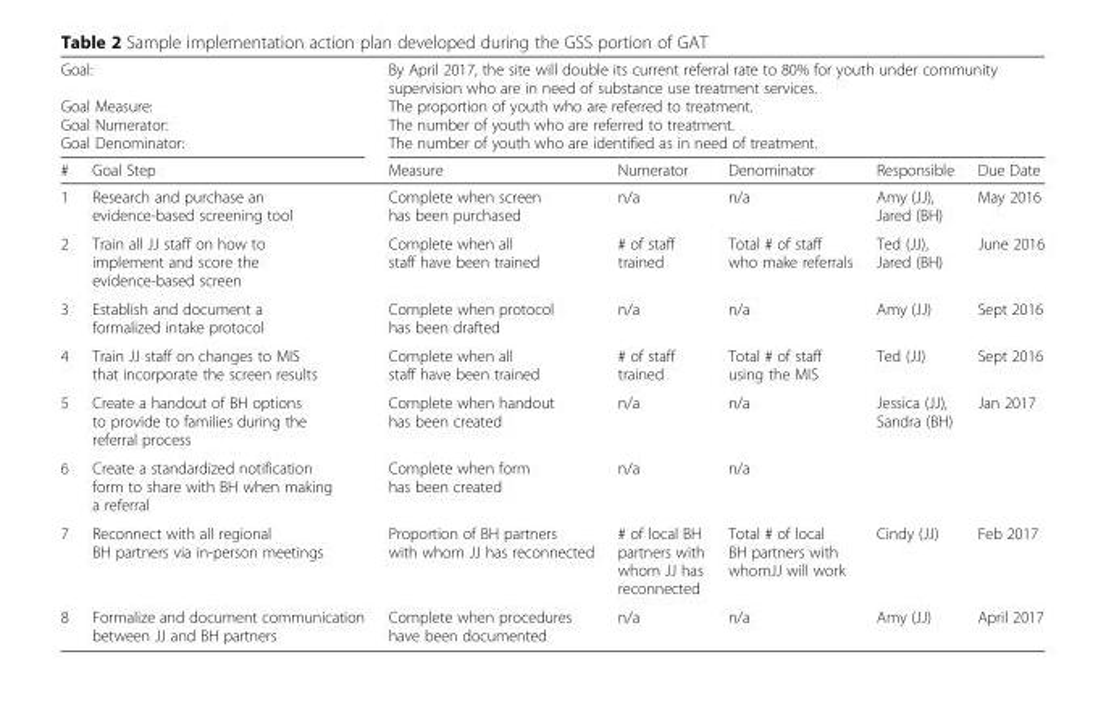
<table><thead><tr><td rowspan="4" colspan="2">Goal: Goal Measure: Goal Numerator: Goal Denominator:</td><td rowspan="4" colspan="5">By April 2017, the site will double its current referral rate to 80% for youth under community supervision who are in need of substance use treatment services. The proportion of youth who are referred to treatment. The number of youth who are referred to treatment. The number of youth who are identified as in need of treatment.</td></tr><tr></tr><tr></tr><tr></tr><tr><td>#</td><td>Goal Step</td><td>Measure</td><td>Numerator</td><td>Denominator</td><td>Responsible</td><td>Due Date</td></tr></thead><tbody><tr><td>1</td><td>Research and purchase an evidence-based screening tool</td><td>Complete when screen has been purchased</td><td>n/a</td><td>n/a</td><td>Amy (JJ), Jared (BH)</td><td>May 2016</td></tr><tr><td>2</td><td>Train all JJ staff on how to implement and score the evidence-based screen</td><td>Complete when all staff have been trained</td><td># of staff trained</td><td>Total # of staff who make referrals</td><td>Ted (JJ), Jared (BH)</td><td>June 2016</td></tr><tr><td>3</td><td>Establish and document a formalized intake protocol</td><td>Complete when protocol has been drafted</td><td>n/a</td><td>n/a</td><td>Amy (JJ)</td><td>Sept 2016</td></tr><tr><td>4</td><td>Train JJ staff on changes to MIS that incorporate the screen results</td><td>Complete when all staff have been trained</td><td># of staff trained</td><td>Total # of staff using the MIS</td><td>Ted (JJ)</td><td>Sept 2016</td></tr><tr><td>5</td><td>Create a handout of BH options to provide to families during the referral process</td><td>Complete when handout has been created</td><td>n/a</td><td>n/a</td><td>Jessica (JJ), Sandra (BH)</td><td>Jan 2017</td></tr><tr><td>6</td><td>Create a standardized notification form to share with BH when making a referral</td><td>Complete when form has been created</td><td>n/a</td><td>n/a</td><td></td><td></td></tr><tr><td>7</td><td>Reconnect with all regional BH partners via in-person meetings</td><td>Proportion of BH partners with whom JJ has reconnected</td><td># of local BH partners with whom JJ has reconnected</td><td>Total # of local BH partners with whomJJ will work</td><td>Cindy (JJ)</td><td>Feb 2017</td></tr><tr><td>8</td><td>Formalize and document communication between JJ and BH partners</td><td>Complete when procedures have been documented</td><td>n/a</td><td>n/a</td><td>Amy (JJ)</td><td>April 2017</td></tr></tbody></table>